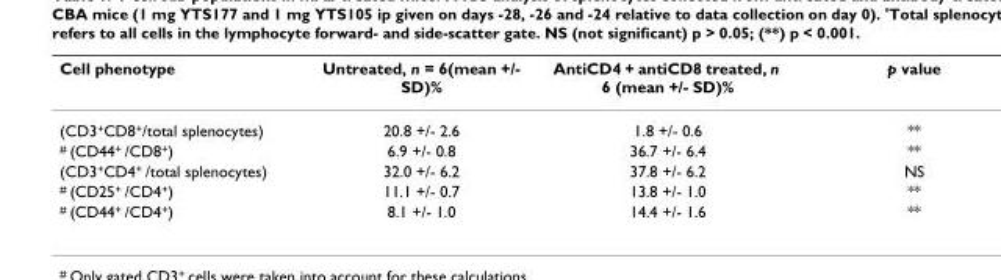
<table><thead><tr><td>Cell phenotype</td><td>Untreated, n = 6(mean +/- SD)%</td><td>AntiCD4 + antiCD8 treated, n 6 (mean +/- SD)%</td><td>p value</td></tr></thead><tbody><tr><td>(CD3<sup>+</sup>CD8<sup>+</sup>/total splenocytes)</td><td>20.8 +/- 2.6</td><td>1.8 +/- 0.6</td><td>**</td></tr><tr><td><sup>#</sup> (CD44<sup>+</sup> /CD8<sup>+</sup>)</td><td>6.9 +/- 0.8</td><td>36.7 +/- 6.4</td><td>**</td></tr><tr><td>(CD3<sup>+</sup>CD4<sup>+</sup> /total splenocytes)</td><td>32.0 +/- 6.2</td><td>37.8 +/- 6.2</td><td>NS</td></tr><tr><td><sup>#</sup> (CD25<sup>+</sup> /CD4<sup>+</sup>)</td><td>11.1 +/- 0.7</td><td>13.8 +/- 1.0</td><td>**</td></tr><tr><td><sup>#</sup> (CD44<sup>+</sup> /CD4<sup>+</sup>)</td><td>8.1 +/- 1.0</td><td>14.4 +/- 1.6</td><td>**</td></tr></tbody></table>